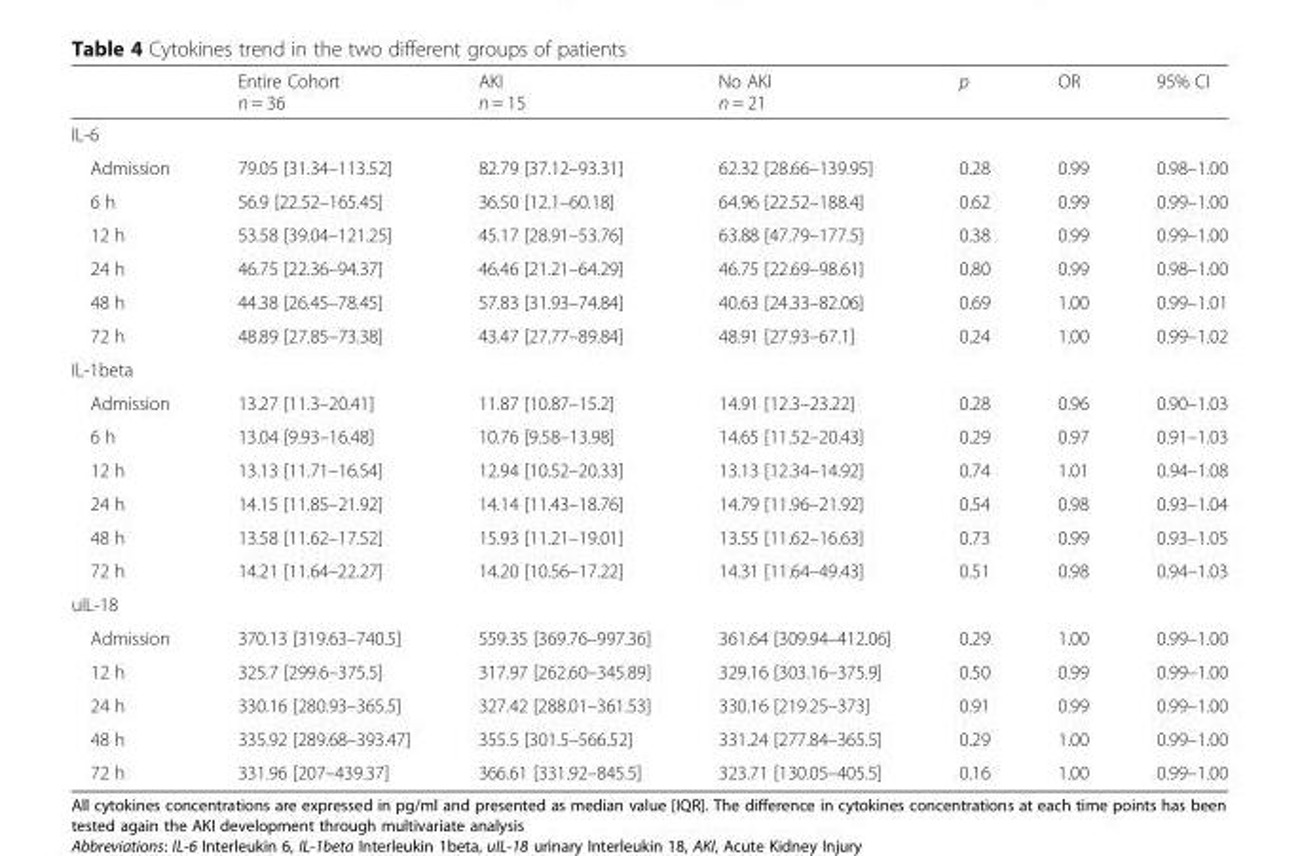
<table><thead><tr><td></td><td>Entire Cohort n = 36</td><td>AKI n = 15</td><td>No AKI n = 21</td><td>p</td><td>OR</td><td>95% CI</td></tr></thead><tbody><tr><td colspan="7">IL-6</td></tr><tr><td>Admission</td><td>79.05 [31.34–113.52]</td><td>82.79 [37.12–93.31]</td><td>62.32 [28.66–139.95]</td><td>0.28</td><td>0.99</td><td>0.98–1.00</td></tr><tr><td>6 h</td><td>56.9 [22.52–165.45]</td><td>36.50 [12.1–60.18]</td><td>64.96 [22.52–188.4]</td><td>0.62</td><td>0.99</td><td>0.99–1.00</td></tr><tr><td>12 h</td><td>53.58 [39.04–121.25]</td><td>45.17 [28.91–53.76]</td><td>63.88 [47.79–177.5]</td><td>0.38</td><td>0.99</td><td>0.99–1.00</td></tr><tr><td>24 h</td><td>46.75 [22.36–94.37]</td><td>46.46 [21.21–64.29]</td><td>46.75 [22.69–98.61]</td><td>0.80</td><td>0.99</td><td>0.98–1.00</td></tr><tr><td>48 h</td><td>44.38 [26.45–78.45]</td><td>57.83 [31.93–74.84]</td><td>40.63 [24.33–82.06]</td><td>0.69</td><td>1.00</td><td>0.99–1.01</td></tr><tr><td>72 h</td><td>48.89 [27.85–73.38]</td><td>43.47 [27.77–89.84]</td><td>48.91 [27.93–67.1]</td><td>0.24</td><td>1.00</td><td>0.99–1.02</td></tr><tr><td colspan="7">IL-1beta</td></tr><tr><td>Admission</td><td>13.27 [11.3–20.41]</td><td>11.87 [10.87–15.2]</td><td>14.91 [12.3–23.22]</td><td>0.28</td><td>0.96</td><td>0.90–1.03</td></tr><tr><td>6 h</td><td>13.04 [9.93–16.48]</td><td>10.76 [9.58–13.98]</td><td>14.65 [11.52–20.43]</td><td>0.29</td><td>0.97</td><td>0.91–1.03</td></tr><tr><td>12 h</td><td>13.13 [11.71–16.54]</td><td>12.94 [10.52–20.33]</td><td>13.13 [12.34–14.92]</td><td>0.74</td><td>1.01</td><td>0.94–1.08</td></tr><tr><td>24 h</td><td>14.15 [11.85–21.92]</td><td>14.14 [11.43–18.76]</td><td>14.79 [11.96–21.92]</td><td>0.54</td><td>0.98</td><td>0.93–1.04</td></tr><tr><td>48 h</td><td>13.58 [11.62–17.52]</td><td>15.93 [11.21–19.01]</td><td>13.55 [11.62–16.63]</td><td>0.73</td><td>0.99</td><td>0.93–1.05</td></tr><tr><td>72 h</td><td>14.21 [11.64–22.27]</td><td>14.20 [10.56–17.22]</td><td>14.31 [11.64–49.43]</td><td>0.51</td><td>0.98</td><td>0.94–1.03</td></tr><tr><td colspan="7">uIL-18</td></tr><tr><td>Admission</td><td>370.13 [319.63–740.5]</td><td>559.35 [369.76–997.36]</td><td>361.64 [309.94–412.06]</td><td>0.29</td><td>1.00</td><td>0.99–1.00</td></tr><tr><td>12 h</td><td>325.7 [299.6–375.5]</td><td>317.97 [262.60–345.89]</td><td>329.16 [303.16–375.9]</td><td>0.50</td><td>0.99</td><td>0.99–1.00</td></tr><tr><td>24 h</td><td>330.16 [280.93–365.5]</td><td>327.42 [288.01–361.53]</td><td>330.16 [219.25–373]</td><td>0.91</td><td>0.99</td><td>0.99–1.00</td></tr><tr><td>48 h</td><td>335.92 [289.68–393.47]</td><td>355.5 [301.5–566.52]</td><td>331.24 [277.84–365.5]</td><td>0.29</td><td>1.00</td><td>0.99–1.00</td></tr><tr><td>72 h</td><td>331.96 [207–439.37]</td><td>366.61 [331.92–845.5]</td><td>323.71 [130.05–405.5]</td><td>0.16</td><td>1.00</td><td>0.99–1.00</td></tr></tbody></table>